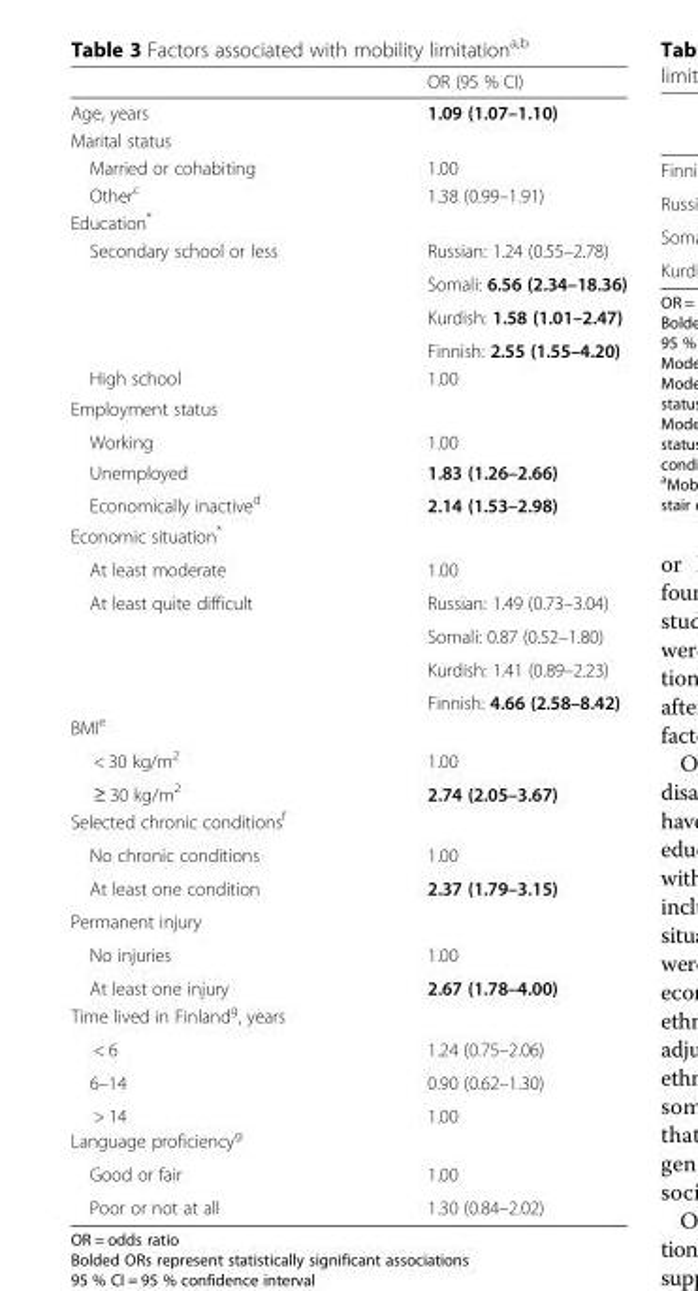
<table><thead><tr><td></td><td>OR (95 % CI)</td></tr></thead><tbody><tr><td>Age, years</td><td>1.09 (1.07–1.10)</td></tr><tr><td colspan="2">Marital status</td></tr><tr><td>Married or cohabiting</td><td>1.00</td></tr><tr><td>Other<sup>c</sup></td><td>1.38 (0.99–1.91)</td></tr><tr><td colspan="2">Education*</td></tr><tr><td rowspan="4">Secondary school or less</td><td>Russian: 1.24 (0.55–2.78)</td></tr><tr><td>Somali: 6.56 (2.34–18.36)</td></tr><tr><td>Kurdish: 1.58 (1.01–2.47)</td></tr><tr><td>Finnish: 2.55 (1.55–4.20)</td></tr><tr><td>High school</td><td>1.00</td></tr><tr><td colspan="2">Employment status</td></tr><tr><td>Working</td><td>1.00</td></tr><tr><td>Unemployed</td><td>1.83 (1.26–2.66)</td></tr><tr><td>Economically inactive<sup>d</sup></td><td>2.14 (1.53–2.98)</td></tr><tr><td colspan="2">Economic situation*</td></tr><tr><td>At least moderate</td><td>1.00</td></tr><tr><td rowspan="4">At least quite difficult</td><td>Russian: 1.49 (0.73–3.04)</td></tr><tr><td>Somali: 0.87 (0.52–1.80)</td></tr><tr><td>Kurdish: 1.41 (0.89–2.23)</td></tr><tr><td>Finnish: 4.66 (2.58–8.42)</td></tr><tr><td colspan="2">BMI<sup>e</sup></td></tr><tr><td>&lt; 30 kg/m<sup>2</sup></td><td>1.00</td></tr><tr><td>≥ 30 kg/m<sup>2</sup></td><td>2.74 (2.05–3.67)</td></tr><tr><td colspan="2">Selected chronic conditions<sup>f</sup></td></tr><tr><td>No chronic conditions</td><td>1.00</td></tr><tr><td>At least one condition</td><td>2.37 (1.79–3.15)</td></tr><tr><td colspan="2">Permanent injury</td></tr><tr><td>No injuries</td><td>1.00</td></tr><tr><td>At least one injury</td><td>2.67 (1.78–4.00)</td></tr><tr><td colspan="2">Time lived in Finland<sup>g</sup>, years</td></tr><tr><td>&lt; 6</td><td>1.24 (0.75–2.06)</td></tr><tr><td>6–14</td><td>0.90 (0.62–1.30)</td></tr><tr><td>&gt; 14</td><td>1.00</td></tr><tr><td colspan="2">Language proficiency<sup>g</sup></td></tr><tr><td>Good or fair</td><td>1.00</td></tr><tr><td>Poor or not at all</td><td>1.30 (0.84–2.02)</td></tr></tbody></table>